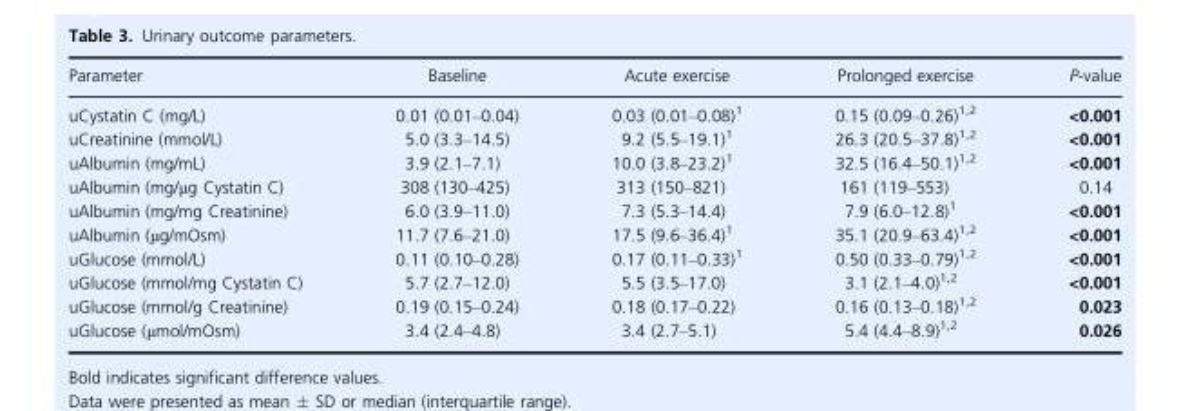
<table><thead><tr><td>Parameter</td><td>Baseline</td><td>Acute exercise</td><td>Prolonged exercise</td><td>P-value</td></tr></thead><tbody><tr><td>uCystatin C (mg/L)</td><td>0.01 (0.01–0.04)</td><td>0.03 (0.01–0.08)1</td><td>0.15 (0.09–0.26)1,2</td><td>&lt;0.001</td></tr><tr><td>uCreatinine (mmol/L)</td><td>5.0 (3.3–14.5)</td><td>9.2 (5.5–19.1)1</td><td>26.3 (20.5–37.8)1,2</td><td>&lt;0.001</td></tr><tr><td>uAlbumin (mg/mL)</td><td>3.9 (2.1–7.1)</td><td>10.0 (3.8–23.2)1</td><td>32.5 (16.4–50.1)1,2</td><td>&lt;0.001</td></tr><tr><td>uAlbumin (mg/μg Cystatin C)</td><td>308 (130–425)</td><td>313 (150–821)</td><td>161 (119–553)</td><td>0.14</td></tr><tr><td>uAlbumin (mg/mg Creatinine)</td><td>6.0 (3.9–11.0)</td><td>7.3 (5.3–14.4)</td><td>7.9 (6.0–12.8)1</td><td>&lt;0.001</td></tr><tr><td>uAlbumin (μg/mOsm)</td><td>11.7 (7.6–21.0)</td><td>17.5 (9.6–36.4)1</td><td>35.1 (20.9–63.4)1,2</td><td>&lt;0.001</td></tr><tr><td>uGlucose (mmol/L)</td><td>0.11 (0.10–0.28)</td><td>0.17 (0.11–0.33)1</td><td>0.50 (0.33–0.79)1,2</td><td>&lt;0.001</td></tr><tr><td>uGlucose (mmol/mg Cystatin C)</td><td>5.7 (2.7–12.0)</td><td>5.5 (3.5–17.0)</td><td>3.1 (2.1–4.0)1,2</td><td>&lt;0.001</td></tr><tr><td>uGlucose (mmol/g Creatinine)</td><td>0.19 (0.15–0.24)</td><td>0.18 (0.17–0.22)</td><td>0.16 (0.13–0.18)1,2</td><td>0.023</td></tr><tr><td>uGlucose (μmol/mOsm)</td><td>3.4 (2.4–4.8)</td><td>3.4 (2.7–5.1)</td><td>5.4 (4.4–8.9)1,2</td><td>0.026</td></tr></tbody></table>